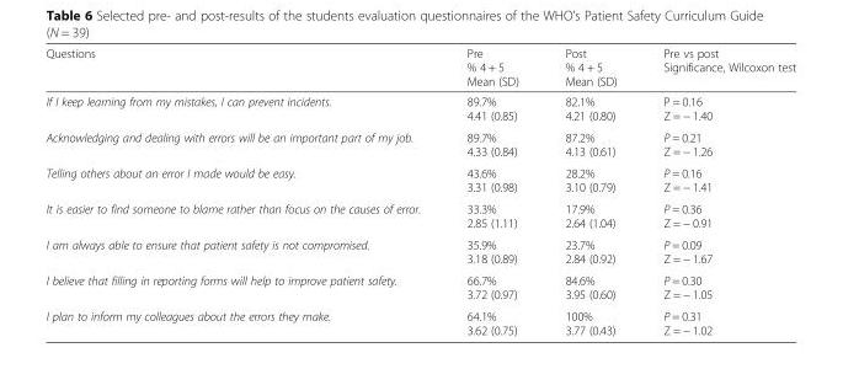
<table><thead><tr><td>Questions</td><td>Pre % 4 + 5 Mean (SD)</td><td>Post % 4 + 5 Mean (SD)</td><td>Pre vs post Significance, Wilcoxon test</td></tr></thead><tbody><tr><td>If I keep learning from my mistakes, I can prevent incidents.</td><td>89.7% 4.41 (0.85)</td><td>82.1% 4.21 (0.80)</td><td>P = 0.16 Z = − 1.40</td></tr><tr><td>Acknowledging and dealing with errors will be an important part of my job.</td><td>89.7% 4.33 (0.84)</td><td>87.2% 4.13 (0.61)</td><td>P = 0.21 Z = − 1.26</td></tr><tr><td>Telling others about an error I made would be easy.</td><td>43.6% 3.31 (0.98)</td><td>28.2% 3.10 (0.79)</td><td>P = 0.16 Z = − 1.41</td></tr><tr><td>It is easier to find someone to blame rather than focus on the causes of error.</td><td>33.3% 2.85 (1.11)</td><td>17.9% 2.64 (1.04)</td><td>P = 0.36 Z = − 0.91</td></tr><tr><td>I am always able to ensure that patient safety is not compromised.</td><td>35.9% 3.18 (0.89)</td><td>23.7% 2.84 (0.92)</td><td>P = 0.09 Z = − 1.67</td></tr><tr><td>I believe that filling in reporting forms will help to improve patient safety.</td><td>66.7% 3.72 (0.97)</td><td>84.6% 3.95 (0.60)</td><td>P = 0.30 Z = − 1.05</td></tr><tr><td>I plan to inform my colleagues about the errors they make.</td><td>64.1% 3.62 (0.75)</td><td>100% 3.77 (0.43)</td><td>P = 0.31 Z = − 1.02</td></tr></tbody></table>